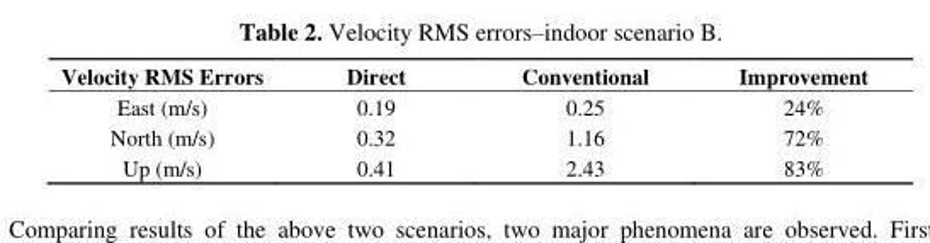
<table><thead><tr><td>Velocity RMS Errors</td><td>Direct</td><td>Conventional</td><td>Improvement</td></tr></thead><tbody><tr><td>East (m/s)</td><td>0.19</td><td>0.25</td><td>24%</td></tr><tr><td>North (m/s)</td><td>0.32</td><td>1.16</td><td>72%</td></tr><tr><td>Up (m/s)</td><td>0.41</td><td>2.43</td><td>83%</td></tr></tbody></table>